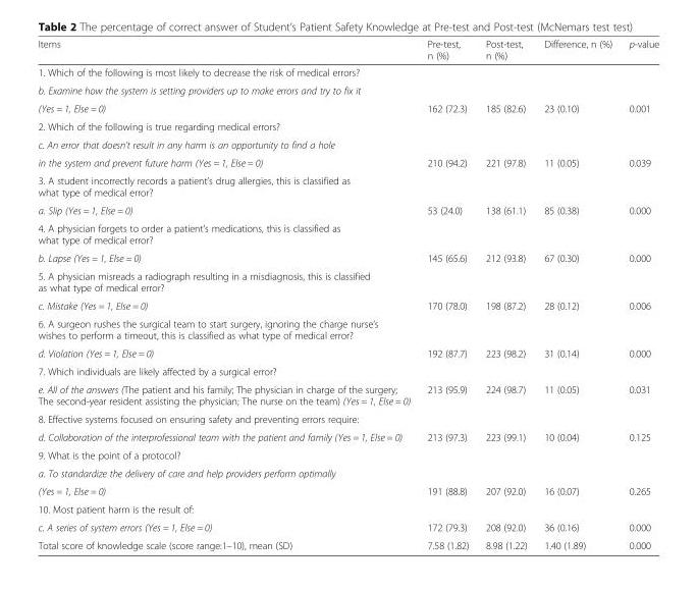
<table><thead><tr><td>Items</td><td>Pre-test, n (%)</td><td>Post-test, n (%)</td><td>Difference, n (%)</td><td>p-value</td></tr></thead><tbody><tr><td colspan="5">1. Which of the following is most likely to decrease the risk of medical errors?</td></tr><tr><td colspan="5">b. Examine how the system is setting providers up to make errors and try to fix it</td></tr><tr><td>(Yes = 1, Else = 0)</td><td>162 (72.3)</td><td>185 (82.6)</td><td>23 (0.10)</td><td>0.001</td></tr><tr><td colspan="5">2. Which of the following is true regarding medical errors?</td></tr><tr><td colspan="5">c. An error that doesn’t result in any harm is an opportunity to find a hole</td></tr><tr><td>in the system and prevent future harm (Yes = 1, Else = 0)</td><td>210 (94.2)</td><td>221 (97.8)</td><td>11 (0.05)</td><td>0.039</td></tr><tr><td colspan="5">3. A student incorrectly records a patient’s drug allergies, this is classified as what type of medical error?</td></tr><tr><td>a. Slip (Yes = 1, Else = 0)</td><td>53 (24.0)</td><td>138 (61.1)</td><td>85 (0.38)</td><td>0.000</td></tr><tr><td colspan="5">4. A physician forgets to order a patient’s medications, this is classified as what type of medical error?</td></tr><tr><td>b. Lapse (Yes = 1, Else = 0)</td><td>145 (65.6)</td><td>212 (93.8)</td><td>67 (0.30)</td><td>0.000</td></tr><tr><td colspan="5">5. A physician misreads a radiograph resulting in a misdiagnosis, this is classified as what type of medical error?</td></tr><tr><td>c. Mistake (Yes = 1, Else = 0)</td><td>170 (78.0)</td><td>198 (87.2)</td><td>28 (0.12)</td><td>0.006</td></tr><tr><td colspan="5">6. A surgeon rushes the surgical team to start surgery, ignoring the charge nurse’s wishes to perform a timeout, this is classified as what type of medical error?</td></tr><tr><td>d. Violation (Yes = 1, Else = 0)</td><td>192 (87.7)</td><td>223 (98.2)</td><td>31 (0.14)</td><td>0.000</td></tr><tr><td colspan="5">7. Which individuals are likely affected by a surgical error?</td></tr><tr><td>e. All of the answers (The patient and his family; The physician in charge of the surgery; The second-year resident assisting the physician; The nurse on the team) (Yes = 1, Else = 0)</td><td>213 (95.9)</td><td>224 (98.7)</td><td>11 (0.05)</td><td>0.031</td></tr><tr><td colspan="5">8. Effective systems focused on ensuring safety and preventing errors require:</td></tr><tr><td>d. Collaboration of the interprofessional team with the patient and family (Yes = 1, Else = 0)</td><td>213 (97.3)</td><td>223 (99.1)</td><td>10 (0.04)</td><td>0.125</td></tr><tr><td colspan="5">9. What is the point of a protocol?</td></tr><tr><td colspan="5">a. To standardize the delivery of care and help providers perform optimally</td></tr><tr><td>(Yes = 1, Else = 0)</td><td>191 (88.8)</td><td>207 (92.0)</td><td>16 (0.07)</td><td>0.265</td></tr><tr><td colspan="5">10. Most patient harm is the result of:</td></tr><tr><td>c. A series of system errors (Yes = 1, Else = 0)</td><td>172 (79.3)</td><td>208 (92.0)</td><td>36 (0.16)</td><td>0.000</td></tr><tr><td>Total score of knowledge scale (score range:1–10), mean (SD)</td><td>7.58 (1.82)</td><td>8.98 (1.22)</td><td>1.40 (1.89)</td><td>0.000</td></tr></tbody></table>